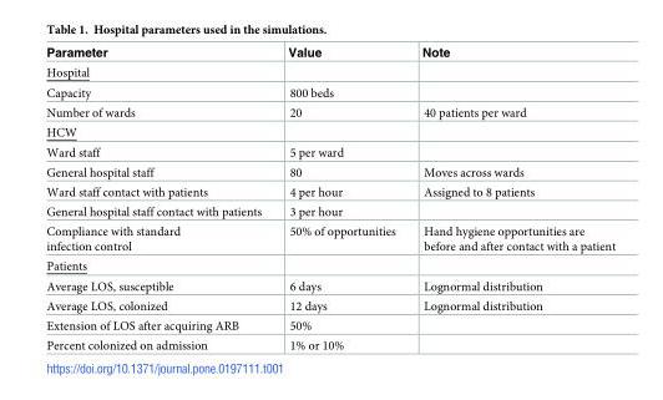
<table><thead><tr><td>Parameter</td><td>Value</td><td>Note</td></tr></thead><tbody><tr><td colspan="3">Hospital</td></tr><tr><td>Capacity</td><td>800 beds</td><td></td></tr><tr><td>Number of wards</td><td>20</td><td>40 patients per ward</td></tr><tr><td colspan="3">HCW</td></tr><tr><td>Ward staff</td><td>5 per ward</td><td></td></tr><tr><td>General hospital staff</td><td>80</td><td>Moves across wards</td></tr><tr><td>Ward staff contact with patients</td><td>4 per hour</td><td>Assigned to 8 patients</td></tr><tr><td>General hospital staff contact with patients</td><td>3 per hour</td><td></td></tr><tr><td>Compliance with standard infection control</td><td>50% of opportunities</td><td>Hand hygiene opportunities are before and after contact with a patient</td></tr><tr><td colspan="3">Patients</td></tr><tr><td>Average LOS, susceptible</td><td>6 days</td><td>Lognormal distribution</td></tr><tr><td>Average LOS, colonized</td><td>12 days</td><td>Lognormal distribution</td></tr><tr><td>Extension of LOS after acquiring ARB</td><td>50%</td><td></td></tr><tr><td>Percent colonized on admission</td><td>1% or 10%</td><td></td></tr></tbody></table>